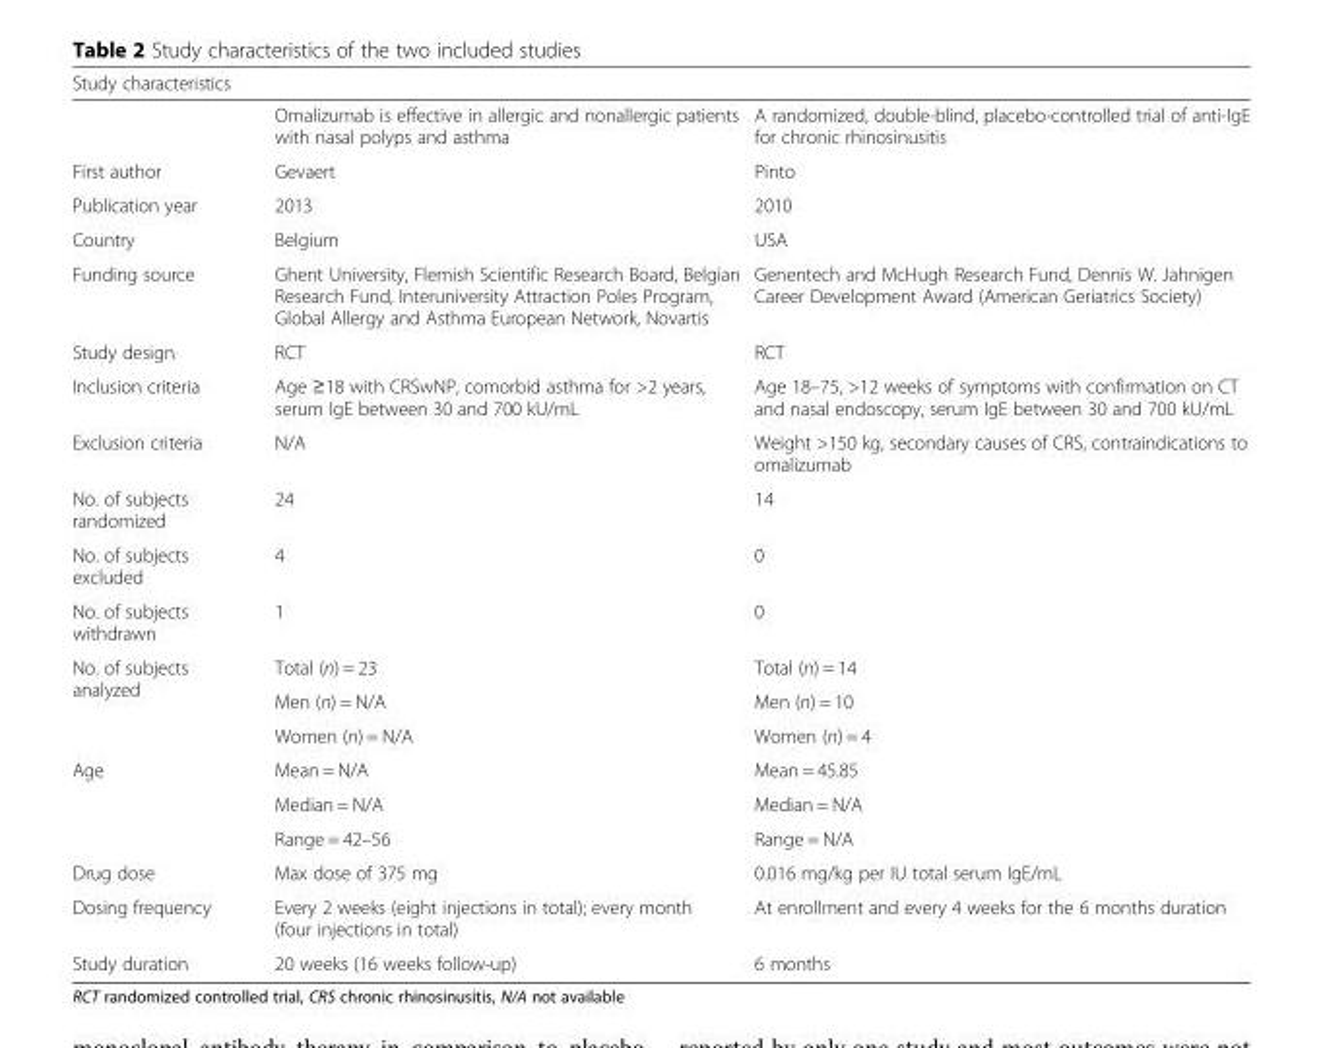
<table><thead><tr><td colspan="3">Study characteristics</td></tr><tr><td></td><td>Omalizumab is effective in allergic and nonallergic patients with nasal polyps and asthma</td><td>A randomized, double-blind, placebo-controlled trial of anti-IgE for chronic rhinosinusitis</td></tr></thead><tbody><tr><td>First author</td><td>Gevaert</td><td>Pinto</td></tr><tr><td>Publication year</td><td>2013</td><td>2010</td></tr><tr><td>Country</td><td>Belgium</td><td>USA</td></tr><tr><td>Funding source</td><td>Ghent University, Flemish Scientific Research Board, Belgian Research Fund, Interuniversity Attraction Poles Program, Global Allergy and Asthma European Network, Novartis</td><td>Genentech and McHugh Research Fund, Dennis W. Jahnigen Career Development Award (American Geriatrics Society)</td></tr><tr><td>Study design</td><td>RCT</td><td>RCT</td></tr><tr><td>Inclusion criteria</td><td>Age ≥18 with CRSwNP, comorbid asthma for &gt;2 years, serum IgE between 30 and 700 kU/mL</td><td>Age 18–75, &gt;12 weeks of symptoms with confirmation on CT and nasal endoscopy, serum IgE between 30 and 700 kU/mL</td></tr><tr><td>Exclusion criteria</td><td>N/A</td><td>Weight &gt;150 kg, secondary causes of CRS, contraindications to omalizumab</td></tr><tr><td>No. of subjects randomized</td><td>24</td><td>14</td></tr><tr><td>No. of subjects excluded</td><td>4</td><td>0</td></tr><tr><td>No. of subjects withdrawn</td><td>1</td><td>0</td></tr><tr><td rowspan="3">No. of subjects analyzed</td><td>Total (n) = 23</td><td>Total (n) = 14</td></tr><tr><td>Men (n) = N/A</td><td>Men (n) = 10</td></tr><tr><td>Women (n) = N/A</td><td>Women (n) = 4</td></tr><tr><td rowspan="3">Age</td><td>Mean = N/A</td><td>Mean = 45.85</td></tr><tr><td>Median = N/A</td><td>Median = N/A</td></tr><tr><td>Range = 42–56</td><td>Range = N/A</td></tr><tr><td>Drug dose</td><td>Max dose of 375 mg</td><td>0.016 mg/kg per IU total serum IgE/mL</td></tr><tr><td>Dosing frequency</td><td>Every 2 weeks (eight injections in total); every month (four injections in total)</td><td>At enrollment and every 4 weeks for the 6 months duration</td></tr><tr><td>Study duration</td><td>20 weeks (16 weeks follow-up)</td><td>6 months</td></tr></tbody></table>